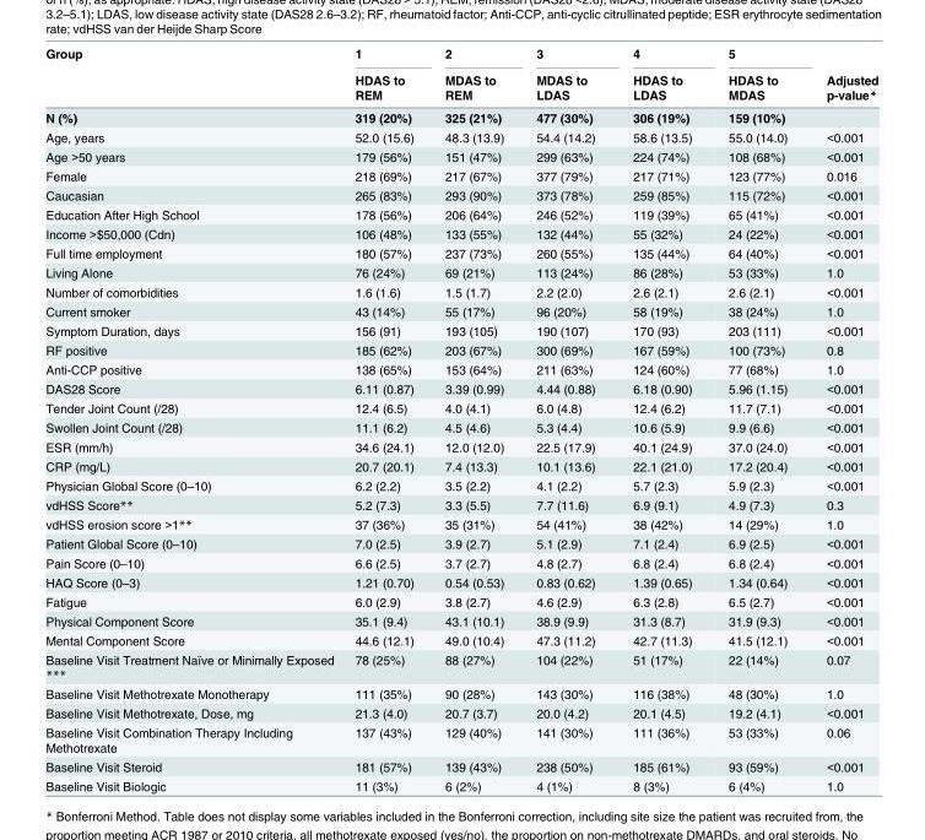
<table><thead><tr><td rowspan="2">Group</td><td rowspan="2">1 HDAS to REM</td><td rowspan="2">2 MDAS to REM</td><td rowspan="2">3 MDAS to LDAS</td><td rowspan="2">4 HDAS to LDAS</td><td rowspan="2">5 HDAS to MDAS</td><td rowspan="2">Adjusted p-value*</td></tr><tr></tr></thead><tbody><tr><td>N (%)</td><td>319 (20%)</td><td>325 (21%)</td><td>477 (30%)</td><td>306 (19%)</td><td>159 (10%)</td><td></td></tr><tr><td>Age, years</td><td>52.0 (15.6)</td><td>48.3 (13.9)</td><td>54.4 (14.2)</td><td>58.6 (13.5)</td><td>55.0 (14.0)</td><td>&lt;0.001</td></tr><tr><td>Age &gt;50 years</td><td>179 (56%)</td><td>151 (47%)</td><td>299 (63%)</td><td>224 (74%)</td><td>108 (68%)</td><td>&lt;0.001</td></tr><tr><td>Female</td><td>218 (69%)</td><td>217 (67%)</td><td>377 (79%)</td><td>217 (71%)</td><td>123 (77%)</td><td>0.016</td></tr><tr><td>Caucasian</td><td>265 (83%)</td><td>293 (90%)</td><td>373 (78%)</td><td>259 (85%)</td><td>115 (72%)</td><td>&lt;0.001</td></tr><tr><td>Education After High School</td><td>178 (56%)</td><td>206 (64%)</td><td>246 (52%)</td><td>119 (39%)</td><td>65 (41%)</td><td>&lt;0.001</td></tr><tr><td>Income &gt;$50,000 (Cdn)</td><td>106 (48%)</td><td>133 (55%)</td><td>132 (44%)</td><td>55 (32%)</td><td>24 (22%)</td><td>&lt;0.001</td></tr><tr><td>Full time employment</td><td>180 (57%)</td><td>237 (73%)</td><td>260 (55%)</td><td>135 (44%)</td><td>64 (40%)</td><td>&lt;0.001</td></tr><tr><td>Living Alone</td><td>76 (24%)</td><td>69 (21%)</td><td>113 (24%)</td><td>86 (28%)</td><td>53 (33%)</td><td>1.0</td></tr><tr><td>Number of comorbidities</td><td>1.6 (1.6)</td><td>1.5 (1.7)</td><td>2.2 (2.0)</td><td>2.6 (2.1)</td><td>2.6 (2.1)</td><td>&lt;0.001</td></tr><tr><td>Current smoker</td><td>43 (14%)</td><td>55 (17%)</td><td>96 (20%)</td><td>58 (19%)</td><td>38 (24%)</td><td>1.0</td></tr><tr><td>Symptom Duration, days</td><td>156 (91)</td><td>193 (105)</td><td>190 (107)</td><td>170 (93)</td><td>203 (111)</td><td>&lt;0.001</td></tr><tr><td>RF positive</td><td>185 (62%)</td><td>203 (67%)</td><td>300 (69%)</td><td>167 (59%)</td><td>100 (73%)</td><td>0.8</td></tr><tr><td>Anti-CCP positive</td><td>138 (65%)</td><td>153 (64%)</td><td>211 (63%)</td><td>124 (60%)</td><td>77 (68%)</td><td>1.0</td></tr><tr><td>DAS28 Score</td><td>6.11 (0.87)</td><td>3.39 (0.99)</td><td>4.44 (0.88)</td><td>6.18 (0.90)</td><td>5.96 (1.15)</td><td>&lt;0.001</td></tr><tr><td>Tender Joint Count (/28)</td><td>12.4 (6.5)</td><td>4.0 (4.1)</td><td>6.0 (4.8)</td><td>12.4 (6.2)</td><td>11.7 (7.1)</td><td>&lt;0.001</td></tr><tr><td>Swollen Joint Count (/28)</td><td>11.1 (6.2)</td><td>4.5 (4.6)</td><td>5.3 (4.4)</td><td>10.6 (5.9)</td><td>9.9 (6.6)</td><td>&lt;0.001</td></tr><tr><td>ESR (mm/h)</td><td>34.6 (24.1)</td><td>12.0 (12.0)</td><td>22.5 (17.9)</td><td>40.1 (24.9)</td><td>37.0 (24.0)</td><td>&lt;0.001</td></tr><tr><td>CRP (mg/L)</td><td>20.7 (20.1)</td><td>7.4 (13.3)</td><td>10.1 (13.6)</td><td>22.1 (21.0)</td><td>17.2 (20.4)</td><td>&lt;0.001</td></tr><tr><td>Physician Global Score (0–10)</td><td>6.2 (2.2)</td><td>3.5 (2.2)</td><td>4.1 (2.2)</td><td>5.7 (2.3)</td><td>5.9 (2.3)</td><td>&lt;0.001</td></tr><tr><td>vdHSS Score**</td><td>5.2 (7.3)</td><td>3.3 (5.5)</td><td>7.7 (11.6)</td><td>6.9 (9.1)</td><td>4.9 (7.3)</td><td>0.3</td></tr><tr><td>vdHSS erosion score &gt;1**</td><td>37 (36%)</td><td>35 (31%)</td><td>54 (41%)</td><td>38 (42%)</td><td>14 (29%)</td><td>1.0</td></tr><tr><td>Patient Global Score (0–10)</td><td>7.0 (2.5)</td><td>3.9 (2.7)</td><td>5.1 (2.9)</td><td>7.1 (2.4)</td><td>6.9 (2.5)</td><td>&lt;0.001</td></tr><tr><td>Pain Score (0–10)</td><td>6.6 (2.5)</td><td>3.7 (2.7)</td><td>4.8 (2.7)</td><td>6.8 (2.4)</td><td>6.8 (2.4)</td><td>&lt;0.001</td></tr><tr><td>HAQ Score (0–3)</td><td>1.21 (0.70)</td><td>0.54 (0.53)</td><td>0.83 (0.62)</td><td>1.39 (0.65)</td><td>1.34 (0.64)</td><td>&lt;0.001</td></tr><tr><td>Fatigue</td><td>6.0 (2.9)</td><td>3.8 (2.7)</td><td>4.6 (2.9)</td><td>6.3 (2.8)</td><td>6.5 (2.7)</td><td>&lt;0.001</td></tr><tr><td>Physical Component Score</td><td>35.1 (9.4)</td><td>43.1 (10.1)</td><td>38.9 (9.9)</td><td>31.3 (8.7)</td><td>31.9 (9.3)</td><td>&lt;0.001</td></tr><tr><td>Mental Component Score</td><td>44.6 (12.1)</td><td>49.0 (10.4)</td><td>47.3 (11.2)</td><td>42.7 (11.3)</td><td>41.5 (12.1)</td><td>&lt;0.001</td></tr><tr><td>Baseline Visit Treatment Naïve or Minimally Exposed ***</td><td>78 (25%)</td><td>88 (27%)</td><td>104 (22%)</td><td>51 (17%)</td><td>22 (14%)</td><td>0.07</td></tr><tr><td>Baseline Visit Methotrexate Monotherapy</td><td>111 (35%)</td><td>90 (28%)</td><td>143 (30%)</td><td>116 (38%)</td><td>48 (30%)</td><td>1.0</td></tr><tr><td>Baseline Visit Methotrexate, Dose, mg</td><td>21.3 (4.0)</td><td>20.7 (3.7)</td><td>20.0 (4.2)</td><td>20.1 (4.5)</td><td>19.2 (4.1)</td><td>&lt;0.001</td></tr><tr><td>Baseline Visit Combination Therapy Including Methotrexate</td><td>137 (43%)</td><td>129 (40%)</td><td>141 (30%)</td><td>111 (36%)</td><td>53 (33%)</td><td>0.06</td></tr><tr><td>Baseline Visit Steroid</td><td>181 (57%)</td><td>139 (43%)</td><td>238 (50%)</td><td>185 (61%)</td><td>93 (59%)</td><td>&lt;0.001</td></tr><tr><td>Baseline Visit Biologic</td><td>11 (3%)</td><td>6 (2%)</td><td>4 (1%)</td><td>8 (3%)</td><td>6 (4%)</td><td>1.0</td></tr></tbody></table>